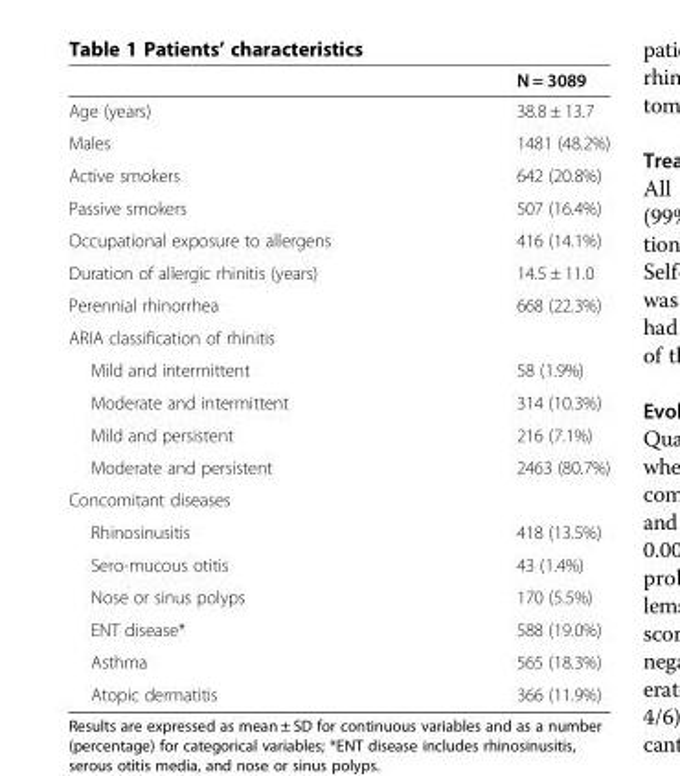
<table><thead><tr><td></td><td>N = 3089</td></tr></thead><tbody><tr><td>Age (years)</td><td>38.8 ± 13.7</td></tr><tr><td>Males</td><td>1481 (48.2%)</td></tr><tr><td>Active smokers</td><td>642 (20.8%)</td></tr><tr><td>Passive smokers</td><td>507 (16.4%)</td></tr><tr><td>Occupational exposure to allergens</td><td>416 (14.1%)</td></tr><tr><td>Duration of allergic rhinitis (years)</td><td>14.5 ± 11.0</td></tr><tr><td>Perennial rhinorrhea</td><td>668 (22.3%)</td></tr><tr><td colspan="2">ARIA classification of rhinitis</td></tr><tr><td>Mild and intermittent</td><td>58 (1.9%)</td></tr><tr><td>Moderate and intermittent</td><td>314 (10.3%)</td></tr><tr><td>Mild and persistent</td><td>216 (7.1%)</td></tr><tr><td>Moderate and persistent</td><td>2463 (80.7%)</td></tr><tr><td colspan="2">Concomitant diseases</td></tr><tr><td>Rhinosinusitis</td><td>418 (13.5%)</td></tr><tr><td>Sero-mucous otitis</td><td>43 (1.4%)</td></tr><tr><td>Nose or sinus polyps</td><td>170 (5.5%)</td></tr><tr><td>ENT disease*</td><td>588 (19.0%)</td></tr><tr><td>Asthma</td><td>565 (18.3%)</td></tr><tr><td>Atopic dermatitis</td><td>366 (11.9%)</td></tr></tbody></table>